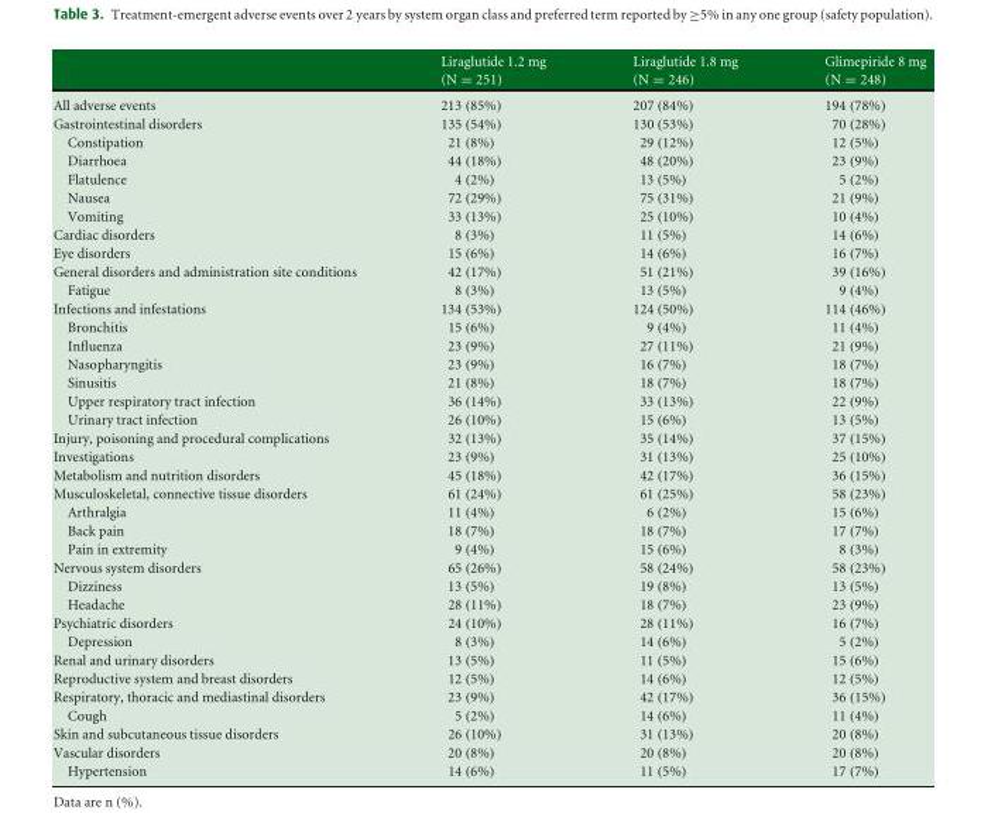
<table><thead><tr><td></td><td>Liraglutide 1.2 mg (N = 251)</td><td>Liraglutide 1.8 mg (N = 246)</td><td>Glimepiride 8 mg (N = 248)</td></tr></thead><tbody><tr><td>All adverse events</td><td>213 (85%)</td><td>207 (84%)</td><td>194 (78%)</td></tr><tr><td>Gastrointestinal disorders</td><td>135 (54%)</td><td>130 (53%)</td><td>70 (28%)</td></tr><tr><td>Constipation</td><td>21 (8%)</td><td>29 (12%)</td><td>12 (5%)</td></tr><tr><td>Diarrhoea</td><td>44 (18%)</td><td>48 (20%)</td><td>23 (9%)</td></tr><tr><td>Flatulence</td><td>4 (2%)</td><td>13 (5%)</td><td>5 (2%)</td></tr><tr><td>Nausea</td><td>72 (29%)</td><td>75 (31%)</td><td>21 (9%)</td></tr><tr><td>Vomiting</td><td>33 (13%)</td><td>25 (10%)</td><td>10 (4%)</td></tr><tr><td>Cardiac disorders</td><td>8 (3%)</td><td>11 (5%)</td><td>14 (6%)</td></tr><tr><td>Eye disorders</td><td>15 (6%)</td><td>14 (6%)</td><td>16 (7%)</td></tr><tr><td>General disorders and administration site conditions</td><td>42 (17%)</td><td>51 (21%)</td><td>39 (16%)</td></tr><tr><td>Fatigue</td><td>8 (3%)</td><td>13 (5%)</td><td>9 (4%)</td></tr><tr><td>Infections and infestations</td><td>134 (53%)</td><td>124 (50%)</td><td>114 (46%)</td></tr><tr><td>Bronchitis</td><td>15 (6%)</td><td>9 (4%)</td><td>11 (4%)</td></tr><tr><td>Influenza</td><td>23 (9%)</td><td>27 (11%)</td><td>21 (9%)</td></tr><tr><td>Nasopharyngitis</td><td>23 (9%)</td><td>16 (7%)</td><td>18 (7%)</td></tr><tr><td>Sinusitis</td><td>21 (8%)</td><td>18 (7%)</td><td>18 (7%)</td></tr><tr><td>Upper respiratory tract infection</td><td>36 (14%)</td><td>33 (13%)</td><td>22 (9%)</td></tr><tr><td>Urinary tract infection</td><td>26 (10%)</td><td>15 (6%)</td><td>13 (5%)</td></tr><tr><td>Injury, poisoning and procedural complications</td><td>32 (13%)</td><td>35 (14%)</td><td>37 (15%)</td></tr><tr><td>Investigations</td><td>23 (9%)</td><td>31 (13%)</td><td>25 (10%)</td></tr><tr><td>Metabolism and nutrition disorders</td><td>45 (18%)</td><td>42 (17%)</td><td>36 (15%)</td></tr><tr><td>Musculoskeletal, connective tissue disorders</td><td>61 (24%)</td><td>61 (25%)</td><td>58 (23%)</td></tr><tr><td>Arthralgia</td><td>11 (4%)</td><td>6 (2%)</td><td>15 (6%)</td></tr><tr><td>Back pain</td><td>18 (7%)</td><td>18 (7%)</td><td>17 (7%)</td></tr><tr><td>Pain in extremity</td><td>9 (4%)</td><td>15 (6%)</td><td>8 (3%)</td></tr><tr><td>Nervous system disorders</td><td>65 (26%)</td><td>58 (24%)</td><td>58 (23%)</td></tr><tr><td>Dizziness</td><td>13 (5%)</td><td>19 (8%)</td><td>13 (5%)</td></tr><tr><td>Headache</td><td>28 (11%)</td><td>18 (7%)</td><td>23 (9%)</td></tr><tr><td>Psychiatric disorders</td><td>24 (10%)</td><td>28 (11%)</td><td>16 (7%)</td></tr><tr><td>Depression</td><td>8 (3%)</td><td>14 (6%)</td><td>5 (2%)</td></tr><tr><td>Renal and urinary disorders</td><td>13 (5%)</td><td>11 (5%)</td><td>15 (6%)</td></tr><tr><td>Reproductive system and breast disorders</td><td>12 (5%)</td><td>14 (6%)</td><td>12 (5%)</td></tr><tr><td>Respiratory, thoracic and mediastinal disorders</td><td>23 (9%)</td><td>42 (17%)</td><td>36 (15%)</td></tr><tr><td>Cough</td><td>5 (2%)</td><td>14 (6%)</td><td>11 (4%)</td></tr><tr><td>Skin and subcutaneous tissue disorders</td><td>26 (10%)</td><td>31 (13%)</td><td>20 (8%)</td></tr><tr><td>Vascular disorders</td><td>20 (8%)</td><td>20 (8%)</td><td>20 (8%)</td></tr><tr><td>Hypertension</td><td>14 (6%)</td><td>11 (5%)</td><td>17 (7%)</td></tr></tbody></table>